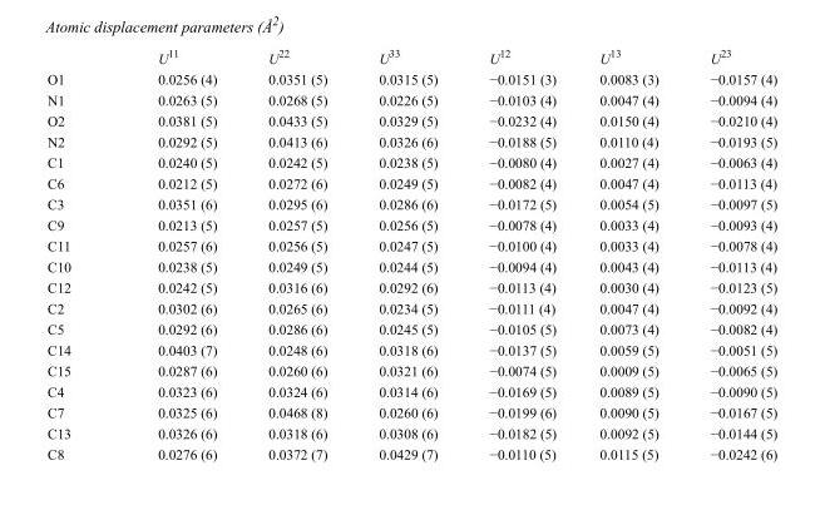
<table><thead><tr><td></td><td>U<sup>11</sup></td><td>U<sup>22</sup></td><td>U<sup>33</sup></td><td>U<sup>12</sup></td><td>U<sup>13</sup></td><td>U<sup>23</sup></td></tr></thead><tbody><tr><td>O1</td><td>0.0256 (4)</td><td>0.0351 (5)</td><td>0.0315 (5)</td><td>−0.0151 (3)</td><td>0.0083 (3)</td><td>−0.0157 (4)</td></tr><tr><td>N1</td><td>0.0263 (5)</td><td>0.0268 (5)</td><td>0.0226 (5)</td><td>−0.0103 (4)</td><td>0.0047 (4)</td><td>−0.0094 (4)</td></tr><tr><td>O2</td><td>0.0381 (5)</td><td>0.0433 (5)</td><td>0.0329 (5)</td><td>−0.0232 (4)</td><td>0.0150 (4)</td><td>−0.0210 (4)</td></tr><tr><td>N2</td><td>0.0292 (5)</td><td>0.0413 (6)</td><td>0.0326 (6)</td><td>−0.0188 (5)</td><td>0.0110 (4)</td><td>−0.0193 (5)</td></tr><tr><td>C1</td><td>0.0240 (5)</td><td>0.0242 (5)</td><td>0.0238 (5)</td><td>−0.0080 (4)</td><td>0.0027 (4)</td><td>−0.0063 (4)</td></tr><tr><td>C6</td><td>0.0212 (5)</td><td>0.0272 (6)</td><td>0.0249 (5)</td><td>−0.0082 (4)</td><td>0.0047 (4)</td><td>−0.0113 (4)</td></tr><tr><td>C3</td><td>0.0351 (6)</td><td>0.0295 (6)</td><td>0.0286 (6)</td><td>−0.0172 (5)</td><td>0.0054 (5)</td><td>−0.0097 (5)</td></tr><tr><td>C9</td><td>0.0213 (5)</td><td>0.0257 (5)</td><td>0.0256 (5)</td><td>−0.0078 (4)</td><td>0.0033 (4)</td><td>−0.0093 (4)</td></tr><tr><td>C11</td><td>0.0257 (6)</td><td>0.0256 (5)</td><td>0.0247 (5)</td><td>−0.0100 (4)</td><td>0.0033 (4)</td><td>−0.0078 (4)</td></tr><tr><td>C10</td><td>0.0238 (5)</td><td>0.0249 (5)</td><td>0.0244 (5)</td><td>−0.0094 (4)</td><td>0.0043 (4)</td><td>−0.0113 (4)</td></tr><tr><td>C12</td><td>0.0242 (5)</td><td>0.0316 (6)</td><td>0.0292 (6)</td><td>−0.0113 (4)</td><td>0.0030 (4)</td><td>−0.0123 (5)</td></tr><tr><td>C2</td><td>0.0302 (6)</td><td>0.0265 (6)</td><td>0.0234 (5)</td><td>−0.0111 (4)</td><td>0.0047 (4)</td><td>−0.0092 (4)</td></tr><tr><td>C5</td><td>0.0292 (6)</td><td>0.0286 (6)</td><td>0.0245 (5)</td><td>−0.0105 (5)</td><td>0.0073 (4)</td><td>−0.0082 (4)</td></tr><tr><td>C14</td><td>0.0403 (7)</td><td>0.0248 (6)</td><td>0.0318 (6)</td><td>−0.0137 (5)</td><td>0.0059 (5)</td><td>−0.0051 (5)</td></tr><tr><td>C15</td><td>0.0287 (6)</td><td>0.0260 (6)</td><td>0.0321 (6)</td><td>−0.0074 (5)</td><td>0.0009 (5)</td><td>−0.0065 (5)</td></tr><tr><td>C4</td><td>0.0323 (6)</td><td>0.0324 (6)</td><td>0.0314 (6)</td><td>−0.0169 (5)</td><td>0.0089 (5)</td><td>−0.0090 (5)</td></tr><tr><td>C7</td><td>0.0325 (6)</td><td>0.0468 (8)</td><td>0.0260 (6)</td><td>−0.0199 (6)</td><td>0.0090 (5)</td><td>−0.0167 (5)</td></tr><tr><td>C13</td><td>0.0326 (6)</td><td>0.0318 (6)</td><td>0.0308 (6)</td><td>−0.0182 (5)</td><td>0.0092 (5)</td><td>−0.0144 (5)</td></tr><tr><td>C8</td><td>0.0276 (6)</td><td>0.0372 (7)</td><td>0.0429 (7)</td><td>−0.0110 (5)</td><td>0.0115 (5)</td><td>−0.0242 (6)</td></tr></tbody></table>